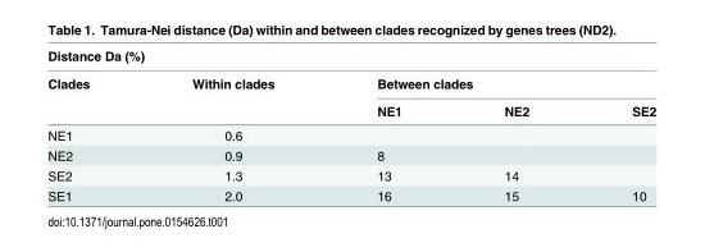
<table><thead><tr><td colspan="5">Distance Da (%)</td></tr><tr><td rowspan="2">Clades</td><td rowspan="2">Within clades</td><td colspan="3">Between clades</td></tr><tr><td>NE1</td><td>NE2</td><td>SE2</td></tr></thead><tbody><tr><td>NE1</td><td>0.6</td><td></td><td></td><td></td></tr><tr><td>NE2</td><td>0.9</td><td>8</td><td></td><td></td></tr><tr><td>SE2</td><td>1.3</td><td>13</td><td>14</td><td></td></tr><tr><td>SE1</td><td>2.0</td><td>16</td><td>15</td><td>10</td></tr></tbody></table>